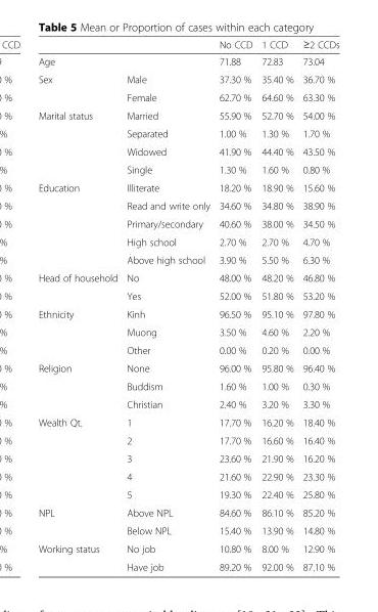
<table><thead><tr><td></td><td></td><td>No CCD</td><td>1 CCD</td><td>≥2 CCDs</td></tr></thead><tbody><tr><td>Age</td><td></td><td>71.88</td><td>72.83</td><td>73.04</td></tr><tr><td rowspan="2">Sex</td><td>Male</td><td>37.30 %</td><td>35.40 %</td><td>36.70 %</td></tr><tr><td>Female</td><td>62.70 %</td><td>64.60 %</td><td>63.30 %</td></tr><tr><td rowspan="4">Marital status</td><td>Married</td><td>55.90 %</td><td>52.70 %</td><td>54.00 %</td></tr><tr><td>Separated</td><td>1.00 %</td><td>1.30 %</td><td>1.70 %</td></tr><tr><td>Widowed</td><td>41.90 %</td><td>44.40 %</td><td>43.50 %</td></tr><tr><td>Single</td><td>1.30 %</td><td>1.60 %</td><td>0.80 %</td></tr><tr><td rowspan="5">Education</td><td>Illiterate</td><td>18.20 %</td><td>18.90 %</td><td>15.60 %</td></tr><tr><td>Read and write only</td><td>34.60 %</td><td>34.80 %</td><td>38.90 %</td></tr><tr><td>Primary/secondary</td><td>40.60 %</td><td>38.00 %</td><td>34.50 %</td></tr><tr><td>High school</td><td>2.70 %</td><td>2.70 %</td><td>4.70 %</td></tr><tr><td>Above high school</td><td>3.90 %</td><td>5.50 %</td><td>6.30 %</td></tr><tr><td rowspan="2">Head of household</td><td>No</td><td>48.00 %</td><td>48.20 %</td><td>46.80 %</td></tr><tr><td>Yes</td><td>52.00 %</td><td>51.80 %</td><td>53.20 %</td></tr><tr><td rowspan="3">Ethnicity</td><td>Kinh</td><td>96.50 %</td><td>95.10 %</td><td>97.80 %</td></tr><tr><td>Muong</td><td>3.50 %</td><td>4.60 %</td><td>2.20 %</td></tr><tr><td>Other</td><td>0.00 %</td><td>0.20 %</td><td>0.00 %</td></tr><tr><td rowspan="3">Religion</td><td>None</td><td>96.00 %</td><td>95.80 %</td><td>96.40 %</td></tr><tr><td>Buddism</td><td>1.60 %</td><td>1.00 %</td><td>0.30 %</td></tr><tr><td>Christian</td><td>2.40 %</td><td>3.20 %</td><td>3.30 %</td></tr><tr><td rowspan="5">Wealth Qt.</td><td>1</td><td>17.70 %</td><td>16.20 %</td><td>18.40 %</td></tr><tr><td>2</td><td>17.70 %</td><td>16.60 %</td><td>16.40 %</td></tr><tr><td>3</td><td>23.60 %</td><td>21.90 %</td><td>16.20 %</td></tr><tr><td>4</td><td>21.60 %</td><td>22.90 %</td><td>23.30 %</td></tr><tr><td>5</td><td>19.30 %</td><td>22.40 %</td><td>25.80 %</td></tr><tr><td rowspan="2">NPL</td><td>Above NPL</td><td>84.60 %</td><td>86.10 %</td><td>85.20 %</td></tr><tr><td>Below NPL</td><td>15.40 %</td><td>13.90 %</td><td>14.80 %</td></tr><tr><td rowspan="2">Working status</td><td>No job</td><td>10.80 %</td><td>8.00 %</td><td>12.90 %</td></tr><tr><td>Have job</td><td>89.20 %</td><td>92.00 %</td><td>87.10 %</td></tr></tbody></table>